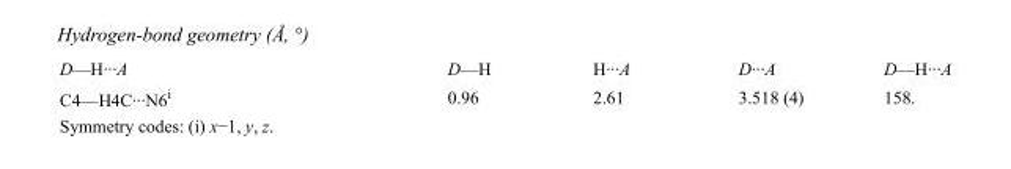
<table><tbody><tr><td>D—H···A</td><td>D—H</td><td>H···A</td><td>D···A</td><td>D—H···A</td></tr><tr><td>C4—H4C···N6<sup>i</sup></td><td>0.96</td><td>2.61</td><td>3.518 (4)</td><td>158.</td></tr></tbody></table>